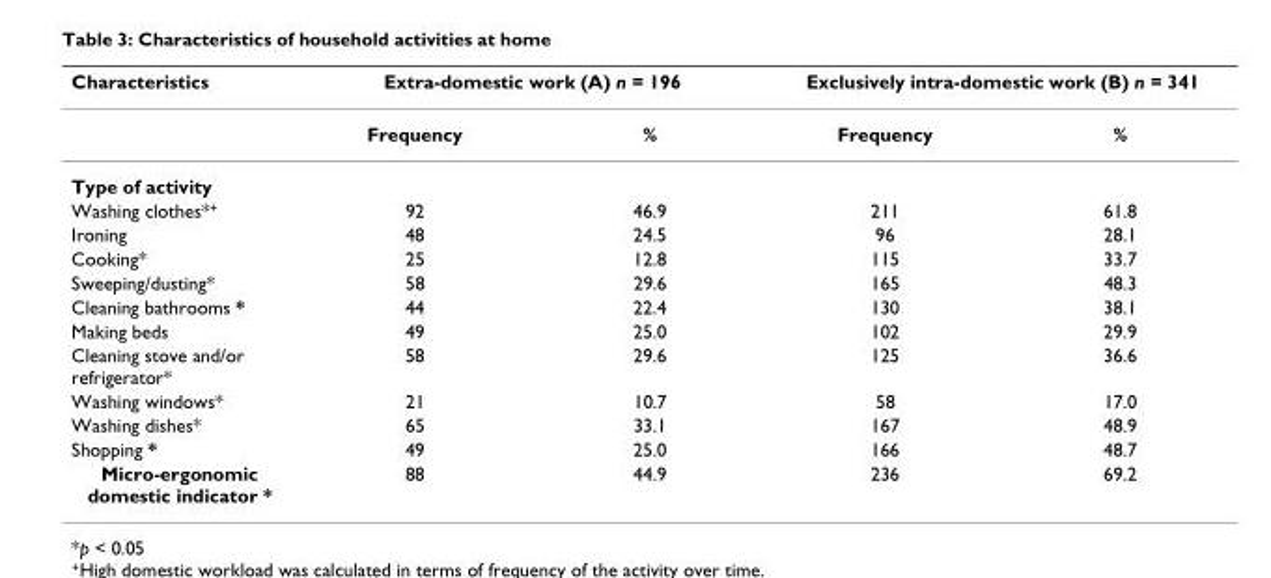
<table><thead><tr><td rowspan="2">Characteristics</td><td colspan="2">Extra-domestic work (A) n = 196</td><td colspan="2">Exclusively intra-domestic work (B) n = 341</td></tr><tr><td>Frequency</td><td>%</td><td>Frequency</td><td>%</td></tr></thead><tbody><tr><td colspan="5">Type of activity</td></tr><tr><td>Washing clothes*<sup>+</sup></td><td>92</td><td>46.9</td><td>211</td><td>61.8</td></tr><tr><td>Ironing</td><td>48</td><td>24.5</td><td>96</td><td>28.1</td></tr><tr><td>Cooking*</td><td>25</td><td>12.8</td><td>115</td><td>33.7</td></tr><tr><td>Sweeping/dusting*</td><td>58</td><td>29.6</td><td>165</td><td>48.3</td></tr><tr><td>Cleaning bathrooms *</td><td>44</td><td>22.4</td><td>130</td><td>38.1</td></tr><tr><td>Making beds</td><td>49</td><td>25.0</td><td>102</td><td>29.9</td></tr><tr><td>Cleaning stove and/or refrigerator*</td><td>58</td><td>29.6</td><td>125</td><td>36.6</td></tr><tr><td>Washing windows*</td><td>21</td><td>10.7</td><td>58</td><td>17.0</td></tr><tr><td>Washing dishes*</td><td>65</td><td>33.1</td><td>167</td><td>48.9</td></tr><tr><td>Shopping *</td><td>49</td><td>25.0</td><td>166</td><td>48.7</td></tr><tr><td>Micro-ergonomic domestic indicator *</td><td>88</td><td>44.9</td><td>236</td><td>69.2</td></tr></tbody></table>